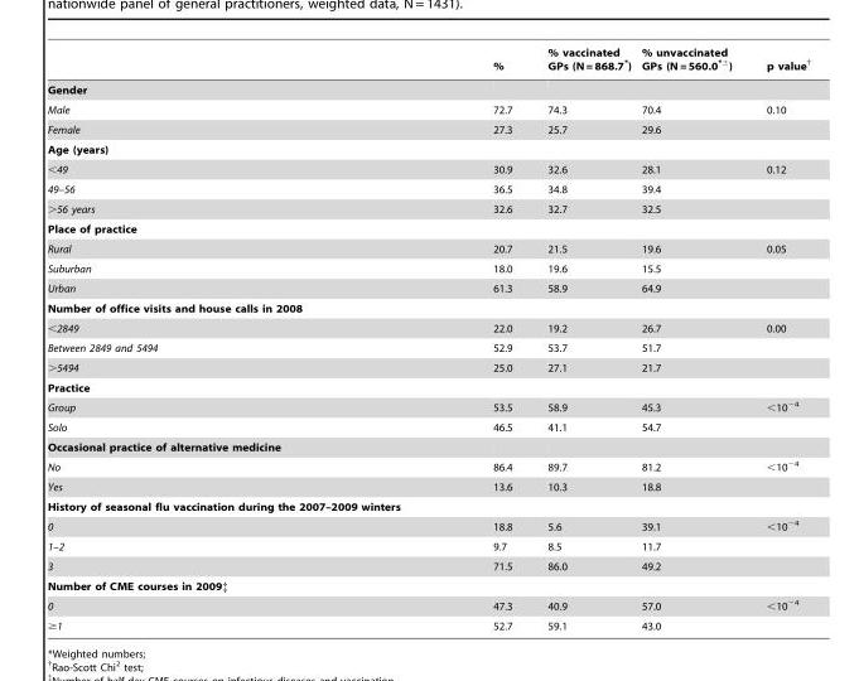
<table><thead><tr><td></td><td>%</td><td>% vaccinated GPs (N = 868.7*)</td><td>% unvaccinated GPs (N = 560.0*<sup>±</sup>)</td><td>p value†</td></tr></thead><tbody><tr><td colspan="5">Gender</td></tr><tr><td>Male</td><td>72.7</td><td>74.3</td><td>70.4</td><td>0.10</td></tr><tr><td>Female</td><td>27.3</td><td>25.7</td><td>29.6</td><td></td></tr><tr><td colspan="5">Age (years)</td></tr><tr><td>&lt;49</td><td>30.9</td><td>32.6</td><td>28.1</td><td>0.12</td></tr><tr><td>49–56</td><td>36.5</td><td>34.8</td><td>39.4</td><td></td></tr><tr><td>&gt;56 years</td><td>32.6</td><td>32.7</td><td>32.5</td><td></td></tr><tr><td colspan="5">Place of practice</td></tr><tr><td>Rural</td><td>20.7</td><td>21.5</td><td>19.6</td><td>0.05</td></tr><tr><td>Suburban</td><td>18.0</td><td>19.6</td><td>15.5</td><td></td></tr><tr><td>Urban</td><td>61.3</td><td>58.9</td><td>64.9</td><td></td></tr><tr><td colspan="5">Number of office visits and house calls in 2008</td></tr><tr><td>&lt;2849</td><td>22.0</td><td>19.2</td><td>26.7</td><td>0.00</td></tr><tr><td>Between 2849 and 5494</td><td>52.9</td><td>53.7</td><td>51.7</td><td></td></tr><tr><td>&gt;5494</td><td>25.0</td><td>27.1</td><td>21.7</td><td></td></tr><tr><td colspan="5">Practice</td></tr><tr><td>Group</td><td>53.5</td><td>58.9</td><td>45.3</td><td>&lt;10<sup>−4</sup></td></tr><tr><td>Solo</td><td>46.5</td><td>41.1</td><td>54.7</td><td></td></tr><tr><td colspan="5">Occasional practice of alternative medicine</td></tr><tr><td>No</td><td>86.4</td><td>89.7</td><td>81.2</td><td>&lt;10<sup>−4</sup></td></tr><tr><td>Yes</td><td>13.6</td><td>10.3</td><td>18.8</td><td></td></tr><tr><td colspan="5">History of seasonal flu vaccination during the 2007–2009 winters</td></tr><tr><td>0</td><td>18.8</td><td>5.6</td><td>39.1</td><td>&lt;10<sup>−4</sup></td></tr><tr><td>1–2</td><td>9.7</td><td>8.5</td><td>11.7</td><td></td></tr><tr><td>3</td><td>71.5</td><td>86.0</td><td>49.2</td><td></td></tr><tr><td colspan="5">Number of CME courses in 2009‡</td></tr><tr><td>0</td><td>47.3</td><td>40.9</td><td>57.0</td><td>&lt;10<sup>−4</sup></td></tr><tr><td>≥1</td><td>52.7</td><td>59.1</td><td>43.0</td><td></td></tr></tbody></table>